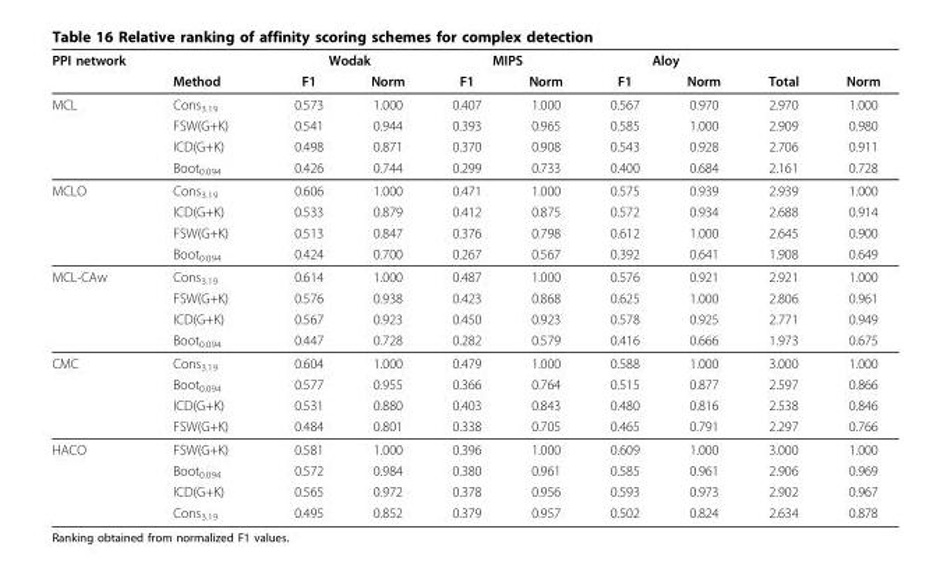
<table><thead><tr><td rowspan="2">PPI network</td><td rowspan="2">Method</td><td colspan="2">Wodak</td><td colspan="2">MIPS</td><td colspan="2">Aloy</td><td rowspan="2">Total</td><td rowspan="2">Norm</td></tr><tr><td>F1</td><td>Norm</td><td>F1</td><td>Norm</td><td>F1</td><td>Norm</td></tr></thead><tbody><tr><td rowspan="4">MCL</td><td>Cons<sub>3.19</sub></td><td>0.573</td><td>1.000</td><td>0.407</td><td>1.000</td><td>0.567</td><td>0.970</td><td>2.970</td><td>1.000</td></tr><tr><td>FSW(G+K)</td><td>0.541</td><td>0.944</td><td>0.393</td><td>0.965</td><td>0.585</td><td>1.000</td><td>2.909</td><td>0.980</td></tr><tr><td>ICD(G+K)</td><td>0.498</td><td>0.871</td><td>0.370</td><td>0.908</td><td>0.543</td><td>0.928</td><td>2.706</td><td>0.911</td></tr><tr><td>Boot<sub>0.094</sub></td><td>0.426</td><td>0.744</td><td>0.299</td><td>0.733</td><td>0.400</td><td>0.684</td><td>2.161</td><td>0.728</td></tr><tr><td rowspan="4">MCLO</td><td>Cons<sub>3.19</sub></td><td>0.606</td><td>1.000</td><td>0.471</td><td>1.000</td><td>0.575</td><td>0.939</td><td>2.939</td><td>1.000</td></tr><tr><td>ICD(G+K)</td><td>0.533</td><td>0.879</td><td>0.412</td><td>0.875</td><td>0.572</td><td>0.934</td><td>2.688</td><td>0.914</td></tr><tr><td>FSW(G+K)</td><td>0.513</td><td>0.847</td><td>0.376</td><td>0.798</td><td>0.612</td><td>1.000</td><td>2.645</td><td>0.900</td></tr><tr><td>Boot<sub>0.094</sub></td><td>0.424</td><td>0.700</td><td>0.267</td><td>0.567</td><td>0.392</td><td>0.641</td><td>1.908</td><td>0.649</td></tr><tr><td rowspan="4">MCL-CAw</td><td>Cons<sub>3.19</sub></td><td>0.614</td><td>1.000</td><td>0.487</td><td>1.000</td><td>0.576</td><td>0.921</td><td>2.921</td><td>1.000</td></tr><tr><td>FSW(G+K)</td><td>0.576</td><td>0.938</td><td>0.423</td><td>0.868</td><td>0.625</td><td>1.000</td><td>2.806</td><td>0.961</td></tr><tr><td>ICD(G+K)</td><td>0.567</td><td>0.923</td><td>0.450</td><td>0.923</td><td>0.578</td><td>0.925</td><td>2.771</td><td>0.949</td></tr><tr><td>Boot<sub>0.094</sub></td><td>0.447</td><td>0.728</td><td>0.282</td><td>0.579</td><td>0.416</td><td>0.666</td><td>1.973</td><td>0.675</td></tr><tr><td rowspan="4">CMC</td><td>Cons<sub>3.19</sub></td><td>0.604</td><td>1.000</td><td>0.479</td><td>1.000</td><td>0.588</td><td>1.000</td><td>3.000</td><td>1.000</td></tr><tr><td>Boot<sub>0.094</sub></td><td>0.577</td><td>0.955</td><td>0.366</td><td>0.764</td><td>0.515</td><td>0.877</td><td>2.597</td><td>0.866</td></tr><tr><td>ICD(G+K)</td><td>0.531</td><td>0.880</td><td>0.403</td><td>0.843</td><td>0.480</td><td>0.816</td><td>2.538</td><td>0.846</td></tr><tr><td>FSW(G+K)</td><td>0.484</td><td>0.801</td><td>0.338</td><td>0.705</td><td>0.465</td><td>0.791</td><td>2.297</td><td>0.766</td></tr><tr><td rowspan="4">HACO</td><td>FSW(G+K)</td><td>0.581</td><td>1.000</td><td>0.396</td><td>1.000</td><td>0.609</td><td>1.000</td><td>3.000</td><td>1.000</td></tr><tr><td>Boot<sub>0.094</sub></td><td>0.572</td><td>0.984</td><td>0.380</td><td>0.961</td><td>0.585</td><td>0.961</td><td>2.906</td><td>0.969</td></tr><tr><td>ICD(G+K)</td><td>0.565</td><td>0.972</td><td>0.378</td><td>0.956</td><td>0.593</td><td>0.973</td><td>2.902</td><td>0.967</td></tr><tr><td>Cons<sub>3.19</sub></td><td>0.495</td><td>0.852</td><td>0.379</td><td>0.957</td><td>0.502</td><td>0.824</td><td>2.634</td><td>0.878</td></tr></tbody></table>